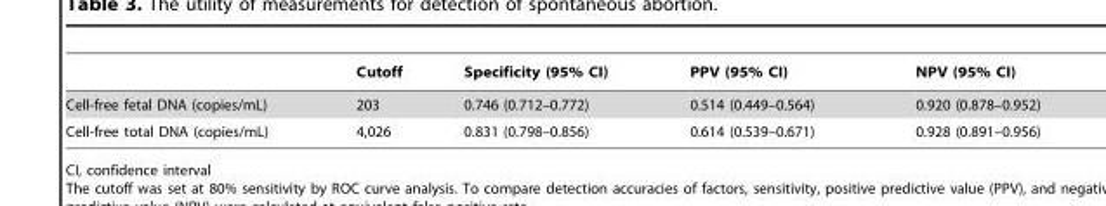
<table><thead><tr><td></td><td>Cutoff</td><td>Specificity (95% CI)</td><td>PPV (95% CI)</td><td>NPV (95% CI)</td></tr></thead><tbody><tr><td>Cell-free fetal DNA (copies/mL)</td><td>203</td><td>0.746 (0.712–0.772)</td><td>0.514 (0.449–0.564)</td><td>0.920 (0.878–0.952)</td></tr><tr><td>Cell-free total DNA (copies/mL)</td><td>4,026</td><td>0.831 (0.798–0.856)</td><td>0.614 (0.539–0.671)</td><td>0.928 (0.891–0.956)</td></tr></tbody></table>